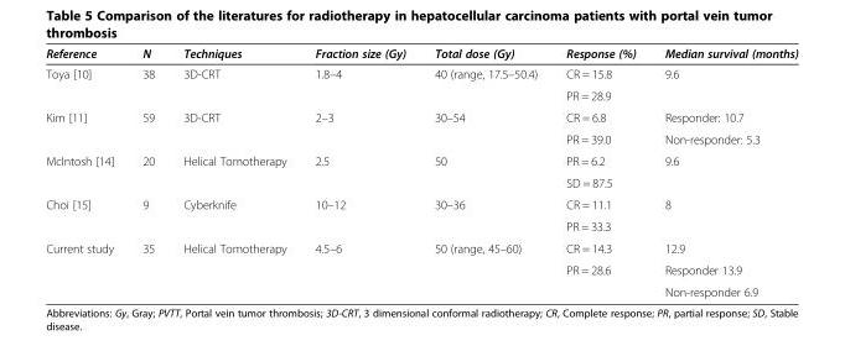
<table><thead><tr><td>Reference</td><td>N</td><td>Techniques</td><td>Fraction size (Gy)</td><td>Total dose (Gy)</td><td>Response (%)</td><td>Median survival (months)</td></tr></thead><tbody><tr><td rowspan="2">Toya [10]</td><td>38</td><td>3D-CRT</td><td>1.8–4</td><td>40 (range, 17.5–50.4)</td><td>CR = 15.8</td><td>9.6</td></tr><tr><td></td><td></td><td></td><td></td><td>PR = 28.9</td><td></td></tr><tr><td rowspan="2">Kim [11]</td><td>59</td><td>3D-CRT</td><td>2–3</td><td>30–54</td><td>CR = 6.8</td><td>Responder: 10.7</td></tr><tr><td></td><td></td><td></td><td></td><td>PR = 39.0</td><td>Non-responder: 5.3</td></tr><tr><td rowspan="2">McIntosh [14]</td><td>20</td><td>Helical Tomotherapy</td><td>2.5</td><td>50</td><td>PR = 6.2</td><td>9.6</td></tr><tr><td></td><td></td><td></td><td></td><td>SD = 87.5</td><td></td></tr><tr><td rowspan="2">Choi [15]</td><td>9</td><td>Cyberknife</td><td>10–12</td><td>30–36</td><td>CR = 11.1</td><td>8</td></tr><tr><td></td><td></td><td></td><td></td><td>PR = 33.3</td><td></td></tr><tr><td rowspan="3">Current study</td><td>35</td><td>Helical Tomotherapy</td><td>4.5–6</td><td>50 (range, 45–60)</td><td>CR = 14.3</td><td>12.9</td></tr><tr><td></td><td></td><td></td><td></td><td>PR = 28.6</td><td>Responder 13.9</td></tr><tr><td></td><td></td><td></td><td></td><td></td><td>Non-responder 6.9</td></tr></tbody></table>